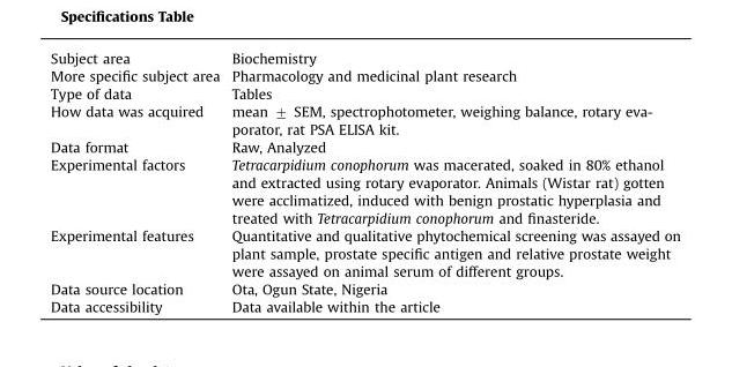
<table><tbody><tr><td>Subject area</td><td>Biochemistry</td></tr><tr><td>More specific subject area</td><td>Pharmacology and medicinal plant research</td></tr><tr><td>Type of data</td><td>Tables</td></tr><tr><td>How data was acquired</td><td>mean 7 SEM, spectrophotometer, weighing balance, rotary eva- porator, rat PSA ELISA kit.</td></tr><tr><td>Data format</td><td>Raw, Analyzed</td></tr><tr><td>Experimental factors</td><td>Tetracarpidium conophorum was macerated, soaked in 80% ethanol and extracted using rotary evaporator. Animals (Wistar rat) gotten were acclimatized, induced with benign prostatic hyperplasia and treated with Tetracarpidium conophorum and finasteride.</td></tr><tr><td>Experimental features</td><td>Quantitative and qualitative phytochemical screening was assayed on plant sample, prostate specific antigen and relative prostate weight were assayed on animal serum of different groups.</td></tr><tr><td>Data source location</td><td>Ota, Ogun State, Nigeria</td></tr><tr><td>Data accessibility</td><td>Data available within the article</td></tr></tbody></table>